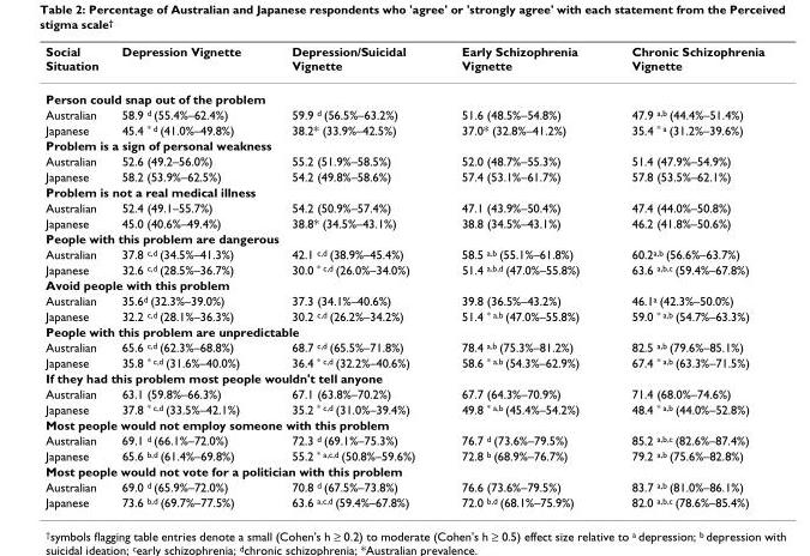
<table><thead><tr><td>Social Situation</td><td>Depression Vignette</td><td>Depression/Suicidal Vignette</td><td>Early Schizophrenia Vignette</td><td>Chronic Schizophrenia Vignette</td></tr></thead><tbody><tr><td colspan="5">Person could snap out of the problem</td></tr><tr><td>Australian</td><td>58.9 <sup>d</sup> (55.4%–62.4%)</td><td>59.9 <sup>d</sup> (56.5%–63.2%)</td><td>51.6 (48.5%–54.8%)</td><td>47.9 <sup>a,b</sup> (44.4%–51.4%)</td></tr><tr><td>Japanese</td><td>45.4 <sup>* d</sup> (41.0%–49.8%)</td><td>38.2* (33.9%–42.5%)</td><td>37.0* (32.8%–41.2%)</td><td>35.4 <sup>* a</sup> (31.2%–39.6%)</td></tr><tr><td colspan="5">Problem is a sign of personal weakness</td></tr><tr><td>Australian</td><td>52.6 (49.2–56.0%)</td><td>55.2 (51.9%–58.5%)</td><td>52.0 (48.7%–55.3%)</td><td>51.4 (47.9%–54.9%)</td></tr><tr><td>Japanese</td><td>58.2 (53.9%–62.5%)</td><td>54.2 (49.8%–58.6%)</td><td>57.4 (53.1%–61.7%)</td><td>57.8 (53.5%–62.1%)</td></tr><tr><td colspan="5">Problem is not a real medical illness</td></tr><tr><td>Australian</td><td>52.4 (49.1–55.7%)</td><td>54.2 (50.9%–57.4%)</td><td>47.1 (43.9%–50.4%)</td><td>47.4 (44.0%–50.8%)</td></tr><tr><td>Japanese</td><td>45.0 (40.6%–49.4%)</td><td>38.8* (34.5%–43.1%)</td><td>38.8 (34.5%–43.1%)</td><td>46.2 (41.8%–50.6%)</td></tr><tr><td colspan="5">People with this problem are dangerous</td></tr><tr><td>Australian</td><td>37.8 <sup>c,d</sup> (34.5%–41.3%)</td><td>42.1 <sup>c,d</sup> (38.9%–45.4%)</td><td>58.5 <sup>a,b</sup> (55.1%–61.8%)</td><td>60.2<sup>a,b</sup> (56.6%–63.7%)</td></tr><tr><td>Japanese</td><td>32.6 <sup>c,d</sup> (28.5%–36.7%)</td><td>30.0 <sup>* c,d</sup> (26.0%–34.0%)</td><td>51.4 <sup>a,b,d</sup> (47.0%–55.8%)</td><td>63.6 <sup>a,b,c</sup> (59.4%–67.8%)</td></tr><tr><td colspan="5">Avoid people with this problem</td></tr><tr><td>Australian</td><td>35.6<sup>d</sup> (32.3%–39.0%)</td><td>37.3 (34.1%–40.6%)</td><td>39.8 (36.5%–43.2%)</td><td>46.1<sup>a</sup> (42.3%–50.0%)</td></tr><tr><td>Japanese</td><td>32.2 <sup>c,d</sup> (28.1%–36.3%)</td><td>30.2 <sup>c,d</sup> (26.2%–34.2%)</td><td>51.4 <sup>* a,b</sup> (47.0%–55.8%)</td><td>59.0 <sup>* a,b</sup> (54.7%–63.3%)</td></tr><tr><td colspan="5">People with this problem are unpredictable</td></tr><tr><td>Australian</td><td>65.6 <sup>c,d</sup> (62.3%–68.8%)</td><td>68.7 <sup>c,d</sup> (65.5%–71.8%)</td><td>78.4 <sup>a,b</sup> (75.3%–81.2%)</td><td>82.5 <sup>a,b</sup> (79.6%–85.1%)</td></tr><tr><td>Japanese</td><td>35.8 <sup>* c,d</sup> (31.6%–40.0%)</td><td>36.4 <sup>* c,d</sup> (32.2%–40.6%)</td><td>58.6 <sup>* a,b</sup> (54.3%–62.9%)</td><td>67.4 <sup>* a,b</sup> (63.3%–71.5%)</td></tr><tr><td colspan="5">If they had this problem most people wouldn&#x27;t tell anyone</td></tr><tr><td>Australian</td><td>63.1 (59.8%–66.3%)</td><td>67.1 (63.8%–70.2%)</td><td>67.7 (64.3%–70.9%)</td><td>71.4 (68.0%–74.6%)</td></tr><tr><td>Japanese</td><td>37.8 <sup>* c,d</sup> (33.5%–42.1%)</td><td>35.2 <sup>* c,d</sup> (31.0%–39.4%)</td><td>49.8 <sup>* a,b</sup> (45.4%–54.2%)</td><td>48.4 <sup>* a,b</sup> (44.0%–52.8%)</td></tr><tr><td colspan="5">Most people would not employ someone with this problem</td></tr><tr><td>Australian</td><td>69.1 <sup>d</sup> (66.1%–72.0%)</td><td>72.3 <sup>d</sup> (69.1%–75.3%)</td><td>76.7 <sup>d</sup> (73.6%–79.5%)</td><td>85.2 <sup>a,b,c</sup> (82.6%–87.4%)</td></tr><tr><td>Japanese</td><td>65.6 <sup>b,d</sup> (61.4%–69.8%)</td><td>55.2 <sup>* a,c,d</sup> (50.8%–59.6%)</td><td>72.8 <sup>b</sup> (68.9%–76.7%)</td><td>79.2 <sup>a,b</sup> (75.6%–82.8%)</td></tr><tr><td colspan="5">Most people would not vote for a politician with this problem</td></tr><tr><td>Australian</td><td>69.0 <sup>d</sup> (65.9%–72.0%)</td><td>70.8 <sup>d</sup> (67.5%–73.8%)</td><td>76.6 (73.6%–79.5%)</td><td>83.7 <sup>a,b</sup> (81.0%–86.1%)</td></tr><tr><td>Japanese</td><td>73.6 <sup>b,d</sup> (69.7%–77.5%)</td><td>63.6 <sup>a,c,d</sup> (59.4%–67.8%)</td><td>72.0 <sup>b,d</sup> (68.1%–75.9%)</td><td>82.0 <sup>a,b,c</sup> (78.6%–85.4%)</td></tr></tbody></table>